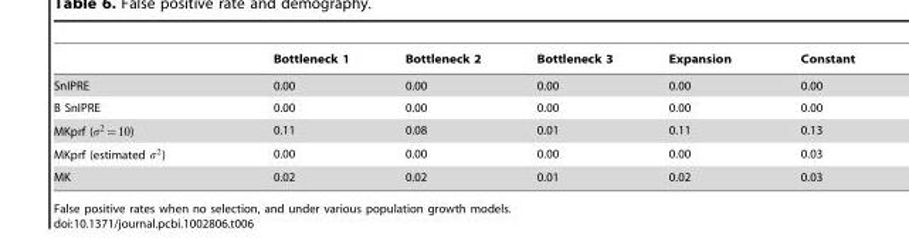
<table><thead><tr><td></td><td>Bottleneck 1</td><td>Bottleneck 2</td><td>Bottleneck 3</td><td>Expansion</td><td>Constant</td></tr></thead><tbody><tr><td>SnIPRE</td><td>0.00</td><td>0.00</td><td>0.00</td><td>0.00</td><td>0.00</td></tr><tr><td>B SnIPRE</td><td>0.00</td><td>0.00</td><td>0.00</td><td>0.00</td><td>0.00</td></tr><tr><td>MKprf (s2~10)</td><td>0.11</td><td>0.08</td><td>0.01</td><td>0.11</td><td>0.13</td></tr><tr><td>MKprf (estimated s2)</td><td>0.00</td><td>0.00</td><td>0.00</td><td>0.00</td><td>0.03</td></tr><tr><td>MK</td><td>0.02</td><td>0.02</td><td>0.01</td><td>0.02</td><td>0.03</td></tr></tbody></table>